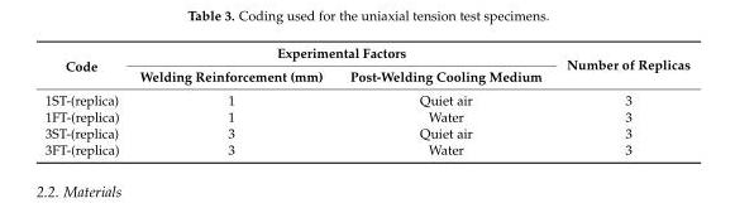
<table><thead><tr><td rowspan="2">Code</td><td colspan="2">Experimental Factors</td><td rowspan="2">Number of Replicas</td></tr><tr><td>Welding Reinforcement (mm)</td><td>Post-Welding Cooling Medium</td></tr></thead><tbody><tr><td>1ST-(replica)</td><td>1</td><td>Quiet air</td><td>3</td></tr><tr><td>1FT-(replica)</td><td>1</td><td>Water</td><td>3</td></tr><tr><td>3ST-(replica)</td><td>3</td><td>Quiet air</td><td>3</td></tr><tr><td>3FT-(replica)</td><td>3</td><td>Water</td><td>3</td></tr></tbody></table>